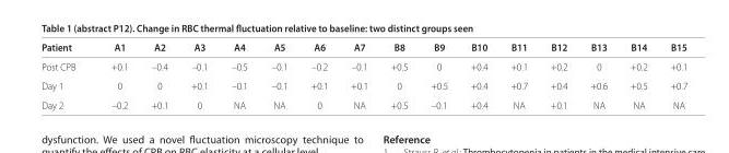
<table><thead><tr><td>Patient</td><td>A1</td><td>A2</td><td>A3</td><td>A4</td><td>A5</td><td>A6</td><td>A7</td><td>B8</td><td>B9</td><td>B10</td><td>B11</td><td>B12</td><td>B13</td><td>B14</td><td>B15</td></tr></thead><tbody><tr><td>Post CPB</td><td>+0.1</td><td>–0.4</td><td>–0.1</td><td>–0.5</td><td>–0.1</td><td>–0.2</td><td>–0.1</td><td>+0.5</td><td>0</td><td>+0.4</td><td>+0.1</td><td>+0.2</td><td>0</td><td>+0.2</td><td>+0.1</td></tr><tr><td>Day 1</td><td>0</td><td>0</td><td>+0.1</td><td>–0.1</td><td>–0.1</td><td>+0.1</td><td>+0.1</td><td>0</td><td>+0.5</td><td>+0.4</td><td>+0.7</td><td>+0.4</td><td>+0.6</td><td>+0.5</td><td>+0.7</td></tr><tr><td>Day 2</td><td>–0.2</td><td>+0.1</td><td>0</td><td>NA</td><td>NA</td><td>0</td><td>NA</td><td>+0.5</td><td>–0.1</td><td>+0.4</td><td>NA</td><td>+0.1</td><td>NA</td><td>NA</td><td>NA</td></tr></tbody></table>